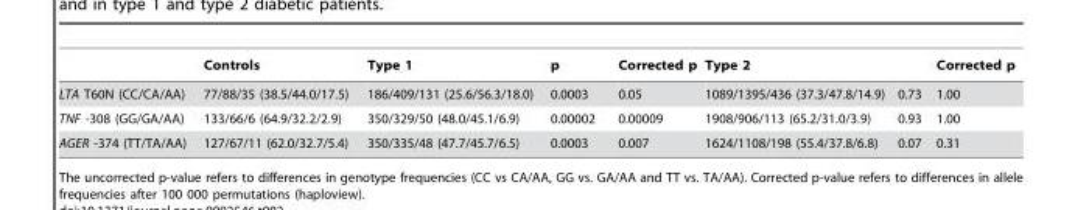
<table><thead><tr><td></td><td>Controls</td><td>Type 1</td><td>p</td><td>Corrected p</td><td>Type 2</td><td></td><td>Corrected p</td></tr></thead><tbody><tr><td>LTA T60N (CC/CA/AA)</td><td>77/88/35 (38.5/44.0/17.5)</td><td>186/409/131 (25.6/56.3/18.0)</td><td>0.0003</td><td>0.05</td><td>1089/1395/436 (37.3/47.8/14.9)</td><td>0.73</td><td>1.00</td></tr><tr><td>TNF -308 (GG/GA/AA)</td><td>133/66/6 (64.9/32.2/2.9)</td><td>350/329/50 (48.0/45.1/6.9)</td><td>0.00002</td><td>0.00009</td><td>1908/906/113 (65.2/31.0/3.9)</td><td>0.93</td><td>1.00</td></tr><tr><td>AGER -374 (TT/TA/AA)</td><td>127/67/11 (62.0/32.7/5.4)</td><td>350/335/48 (47.7/45.7/6.5)</td><td>0.0003</td><td>0.007</td><td>1624/1108/198 (55.4/37.8/6.8)</td><td>0.07</td><td>0.31</td></tr></tbody></table>